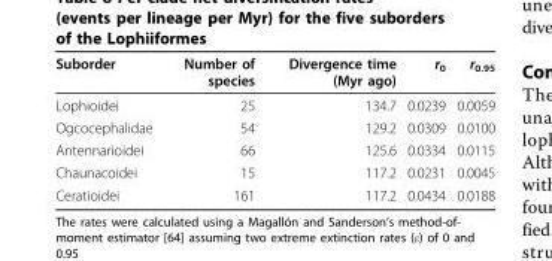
<table><thead><tr><td>Suborder</td><td>Number of species</td><td>Divergence time (Myr ago)</td><td>r<sub>0</sub></td><td>r<sub>0.95</sub></td></tr></thead><tbody><tr><td>Lophioidei</td><td>25</td><td>134.7</td><td>0.0239</td><td>0.0059</td></tr><tr><td>Ogcocephalidae</td><td>54</td><td>129.2</td><td>0.0309</td><td>0.0100</td></tr><tr><td>Antennarioidei</td><td>66</td><td>125.6</td><td>0.0334</td><td>0.0115</td></tr><tr><td>Chaunacoidei</td><td>15</td><td>117.2</td><td>0.0231</td><td>0.0045</td></tr><tr><td>Ceratioidei</td><td>161</td><td>117.2</td><td>0.0434</td><td>0.0188</td></tr></tbody></table>